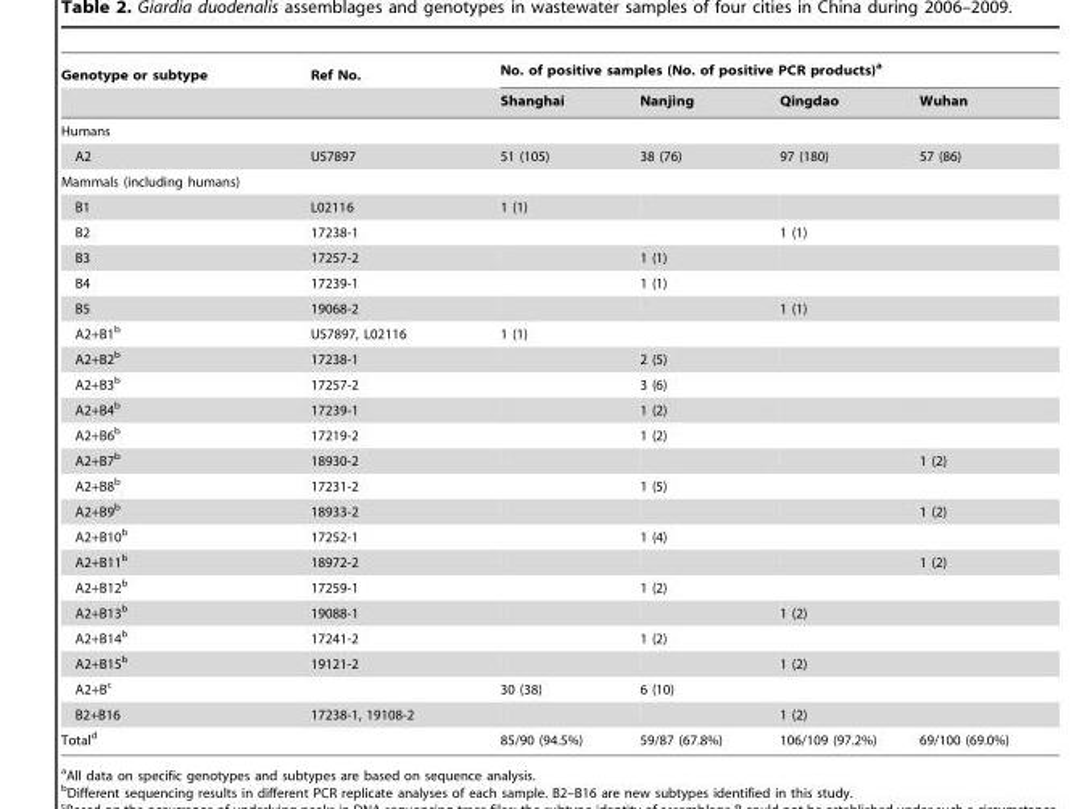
<table><thead><tr><td rowspan="2">Genotype or subtype</td><td rowspan="2">Ref No.</td><td colspan="4">No. of positive samples (No. of positive PCR products)<sup>a</sup></td></tr><tr><td>Shanghai</td><td>Nanjing</td><td>Qingdao</td><td>Wuhan</td></tr></thead><tbody><tr><td colspan="6">Humans</td></tr><tr><td>A2</td><td>U57897</td><td>51 (105)</td><td>38 (76)</td><td>97 (180)</td><td>57 (86)</td></tr><tr><td colspan="6">Mammals (including humans)</td></tr><tr><td>B1</td><td>L02116</td><td>1 (1)</td><td></td><td></td><td></td></tr><tr><td>B2</td><td>17238-1</td><td></td><td></td><td>1 (1)</td><td></td></tr><tr><td>B3</td><td>17257-2</td><td></td><td>1 (1)</td><td></td><td></td></tr><tr><td>B4</td><td>17239-1</td><td></td><td>1 (1)</td><td></td><td></td></tr><tr><td>B5</td><td>19068-2</td><td></td><td></td><td>1 (1)</td><td></td></tr><tr><td>A2+B1<sup>b</sup></td><td>U57897, L02116</td><td>1 (1)</td><td></td><td></td><td></td></tr><tr><td>A2+B2<sup>b</sup></td><td>17238-1</td><td></td><td>2 (5)</td><td></td><td></td></tr><tr><td>A2+B3<sup>b</sup></td><td>17257-2</td><td></td><td>3 (6)</td><td></td><td></td></tr><tr><td>A2+B4<sup>b</sup></td><td>17239-1</td><td></td><td>1 (2)</td><td></td><td></td></tr><tr><td>A2+B6<sup>b</sup></td><td>17219-2</td><td></td><td>1 (2)</td><td></td><td></td></tr><tr><td>A2+B7<sup>b</sup></td><td>18930-2</td><td></td><td></td><td></td><td>1 (2)</td></tr><tr><td>A2+B8<sup>b</sup></td><td>17231-2</td><td></td><td>1 (5)</td><td></td><td></td></tr><tr><td>A2+B9<sup>b</sup></td><td>18933-2</td><td></td><td></td><td></td><td>1 (2)</td></tr><tr><td>A2+B10<sup>b</sup></td><td>17252-1</td><td></td><td>1 (4)</td><td></td><td></td></tr><tr><td>A2+B11<sup>b</sup></td><td>18972-2</td><td></td><td></td><td></td><td>1 (2)</td></tr><tr><td>A2+B12<sup>b</sup></td><td>17259-1</td><td></td><td>1 (2)</td><td></td><td></td></tr><tr><td>A2+B13<sup>b</sup></td><td>19088-1</td><td></td><td></td><td>1 (2)</td><td></td></tr><tr><td>A2+B14<sup>b</sup></td><td>17241-2</td><td></td><td>1 (2)</td><td></td><td></td></tr><tr><td>A2+B15<sup>b</sup></td><td>19121-2</td><td></td><td></td><td>1 (2)</td><td></td></tr><tr><td>A2+B<sup>c</sup></td><td></td><td>30 (38)</td><td>6 (10)</td><td></td><td></td></tr><tr><td>B2+B16</td><td>17238-1, 19108-2</td><td></td><td></td><td>1 (2)</td><td></td></tr><tr><td>Total<sup>d</sup></td><td></td><td>85/90 (94.5%)</td><td>59/87 (67.8%)</td><td>106/109 (97.2%)</td><td>69/100 (69.0%)</td></tr></tbody></table>